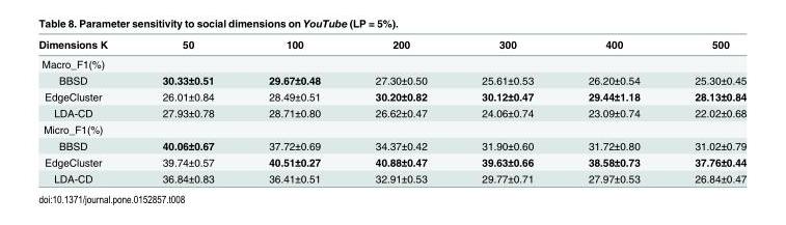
<table><thead><tr><td>Dimensions K</td><td>50</td><td>100</td><td>200</td><td>300</td><td>400</td><td>500</td></tr></thead><tbody><tr><td colspan="7">Macro_F1(%)</td></tr><tr><td>BBSD</td><td>30.33±0.51</td><td>29.67±0.48</td><td>27.30±0.50</td><td>25.61±0.53</td><td>26.20±0.54</td><td>25.30±0.45</td></tr><tr><td>EdgeCluster</td><td>26.01±0.84</td><td>28.49±0.51</td><td>30.20±0.82</td><td>30.12±0.47</td><td>29.44±1.18</td><td>28.13±0.84</td></tr><tr><td>LDA-CD</td><td>27.93±0.78</td><td>28.71±0.80</td><td>26.62±0.47</td><td>24.06±0.74</td><td>23.09±0.74</td><td>22.02±0.68</td></tr><tr><td colspan="7">Micro_F1(%)</td></tr><tr><td>BBSD</td><td>40.06±0.67</td><td>37.72±0.69</td><td>34.37±0.42</td><td>31.90±0.60</td><td>31.72±0.80</td><td>31.02±0.79</td></tr><tr><td>EdgeCluster</td><td>39.74±0.57</td><td>40.51±0.27</td><td>40.88±0.47</td><td>39.63±0.66</td><td>38.58±0.73</td><td>37.76±0.44</td></tr><tr><td>LDA-CD</td><td>36.84±0.83</td><td>36.41±0.51</td><td>32.91±0.53</td><td>29.77±0.71</td><td>27.97±0.53</td><td>26.84±0.47</td></tr></tbody></table>